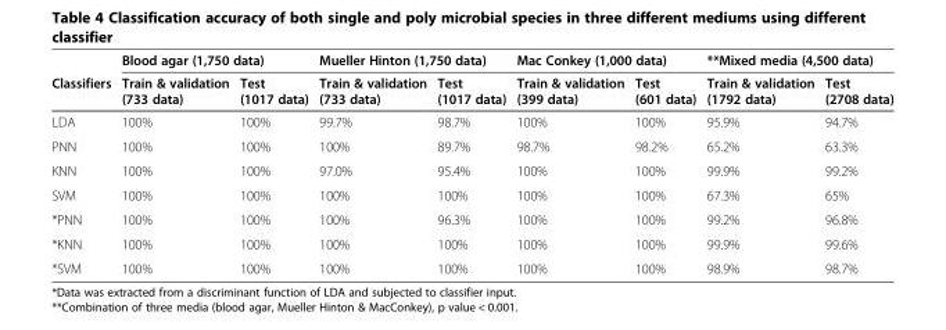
<table><thead><tr><td rowspan="2">Classifiers</td><td colspan="2">Blood agar (1,750 data)</td><td colspan="2">Mueller Hinton (1,750 data)</td><td colspan="2">Mac Conkey (1,000 data)</td><td colspan="2">**Mixed media (4,500 data)</td></tr><tr><td>Train &amp; validation (733 data)</td><td>Test (1017 data)</td><td>Train &amp; validation (733 data)</td><td>Test (1017 data)</td><td>Train &amp; validation (399 data)</td><td>Test (601 data)</td><td>Train &amp; validation (1792 data)</td><td>Test (2708 data)</td></tr></thead><tbody><tr><td>LDA</td><td>100%</td><td>100%</td><td>99.7%</td><td>98.7%</td><td>100%</td><td>100%</td><td>95.9%</td><td>94.7%</td></tr><tr><td>PNN</td><td>100%</td><td>100%</td><td>100%</td><td>89.7%</td><td>98.7%</td><td>98.2%</td><td>65.2%</td><td>63.3%</td></tr><tr><td>KNN</td><td>100%</td><td>100%</td><td>97.0%</td><td>95.4%</td><td>100%</td><td>100%</td><td>99.9%</td><td>99.2%</td></tr><tr><td>SVM</td><td>100%</td><td>100%</td><td>100%</td><td>100%</td><td>100%</td><td>100%</td><td>67.3%</td><td>65%</td></tr><tr><td>*PNN</td><td>100%</td><td>100%</td><td>100%</td><td>96.3%</td><td>100%</td><td>100%</td><td>99.2%</td><td>96.8%</td></tr><tr><td>*KNN</td><td>100%</td><td>100%</td><td>100%</td><td>100%</td><td>100%</td><td>100%</td><td>99.9%</td><td>99.6%</td></tr><tr><td>*SVM</td><td>100%</td><td>100%</td><td>100%</td><td>100%</td><td>100%</td><td>100%</td><td>98.9%</td><td>98.7%</td></tr></tbody></table>